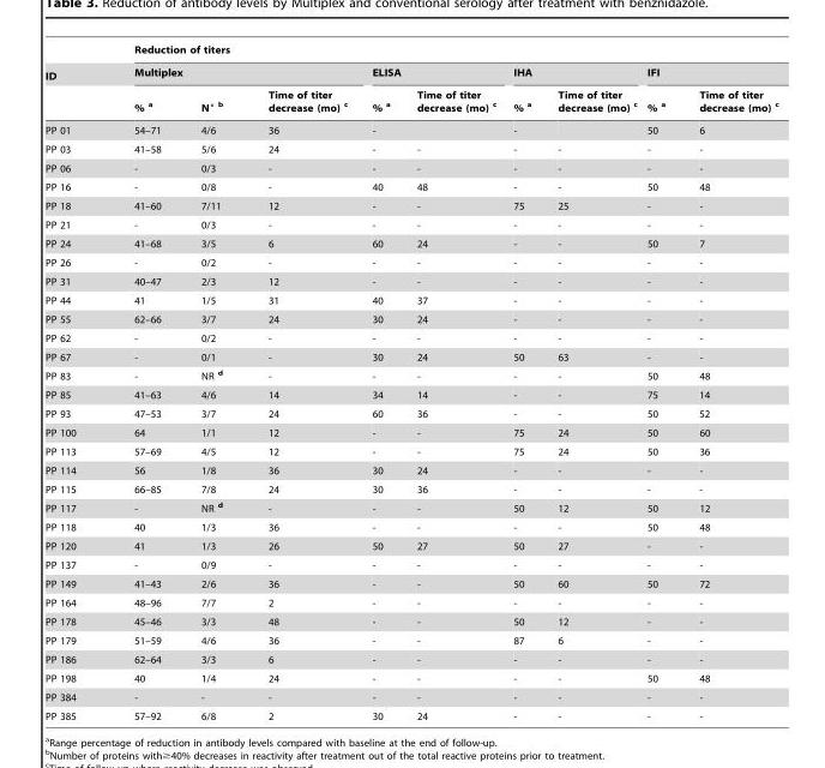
<table><thead><tr><td rowspan="3">ID</td><td colspan="9">Reduction of titers</td></tr><tr><td colspan="3">Multiplex</td><td colspan="2">ELISA</td><td colspan="2">IHA</td><td colspan="2">IFI</td></tr><tr><td>% a</td><td>N° b</td><td>Time of titer decrease (mo) c</td><td>% a</td><td>Time of titer decrease (mo) c</td><td>% a</td><td>Time of titer decrease (mo) c</td><td>% a</td><td>Time of titer decrease (mo) c</td></tr></thead><tbody><tr><td>PP 01</td><td>54–71</td><td>4/6</td><td>36</td><td>-</td><td></td><td>-</td><td></td><td>50</td><td>6</td></tr><tr><td>PP 03</td><td>41–58</td><td>5/6</td><td>24</td><td>-</td><td>-</td><td>-</td><td>-</td><td>-</td><td>-</td></tr><tr><td>PP 06</td><td>-</td><td>0/3</td><td>-</td><td>-</td><td>-</td><td>-</td><td>-</td><td>-</td><td>-</td></tr><tr><td>PP 16</td><td>-</td><td>0/8</td><td>-</td><td>40</td><td>48</td><td>-</td><td>-</td><td>50</td><td>48</td></tr><tr><td>PP 18</td><td>41–60</td><td>7/11</td><td>12</td><td>-</td><td>-</td><td>75</td><td>25</td><td>-</td><td>-</td></tr><tr><td>PP 21</td><td>-</td><td>0/3</td><td>-</td><td>-</td><td>-</td><td>-</td><td>-</td><td>-</td><td>-</td></tr><tr><td>PP 24</td><td>41–68</td><td>3/5</td><td>6</td><td>60</td><td>24</td><td>-</td><td>-</td><td>50</td><td>7</td></tr><tr><td>PP 26</td><td>-</td><td>0/2</td><td>-</td><td>-</td><td>-</td><td>-</td><td>-</td><td>-</td><td>-</td></tr><tr><td>PP 31</td><td>40–47</td><td>2/3</td><td>12</td><td>-</td><td>-</td><td>-</td><td>-</td><td>-</td><td>-</td></tr><tr><td>PP 44</td><td>41</td><td>1/5</td><td>31</td><td>40</td><td>37</td><td>-</td><td>-</td><td>-</td><td>-</td></tr><tr><td>PP 55</td><td>62–66</td><td>3/7</td><td>24</td><td>30</td><td>24</td><td>-</td><td>-</td><td>-</td><td>-</td></tr><tr><td>PP 62</td><td>-</td><td>0/2</td><td>-</td><td>-</td><td>-</td><td>-</td><td>-</td><td>-</td><td>-</td></tr><tr><td>PP 67</td><td>-</td><td>0/1</td><td>-</td><td>30</td><td>24</td><td>50</td><td>63</td><td>-</td><td>-</td></tr><tr><td>PP 83</td><td>-</td><td>NR d</td><td>-</td><td>-</td><td>-</td><td>-</td><td>-</td><td>50</td><td>48</td></tr><tr><td>PP 85</td><td>41–63</td><td>4/6</td><td>14</td><td>34</td><td>14</td><td>-</td><td>-</td><td>75</td><td>14</td></tr><tr><td>PP 93</td><td>47–53</td><td>3/7</td><td>24</td><td>60</td><td>36</td><td>-</td><td>-</td><td>50</td><td>52</td></tr><tr><td>PP 100</td><td>64</td><td>1/1</td><td>12</td><td>-</td><td>-</td><td>75</td><td>24</td><td>50</td><td>60</td></tr><tr><td>PP 113</td><td>57–69</td><td>4/5</td><td>12</td><td>-</td><td>-</td><td>75</td><td>24</td><td>50</td><td>36</td></tr><tr><td>PP 114</td><td>56</td><td>1/8</td><td>36</td><td>30</td><td>24</td><td>-</td><td>-</td><td>-</td><td>-</td></tr><tr><td>PP 115</td><td>66–85</td><td>7/8</td><td>24</td><td>30</td><td>36</td><td>-</td><td>-</td><td>-</td><td>-</td></tr><tr><td>PP 117</td><td>-</td><td>NR d</td><td>-</td><td>-</td><td>-</td><td>50</td><td>12</td><td>50</td><td>12</td></tr><tr><td>PP 118</td><td>40</td><td>1/3</td><td>36</td><td>-</td><td>-</td><td>-</td><td>-</td><td>50</td><td>48</td></tr><tr><td>PP 120</td><td>41</td><td>1/3</td><td>26</td><td>50</td><td>27</td><td>50</td><td>27</td><td>-</td><td>-</td></tr><tr><td>PP 137</td><td>-</td><td>0/9</td><td>-</td><td>-</td><td>-</td><td>-</td><td>-</td><td>-</td><td>-</td></tr><tr><td>PP 149</td><td>41–43</td><td>2/6</td><td>36</td><td>-</td><td>-</td><td>50</td><td>60</td><td>50</td><td>72</td></tr><tr><td>PP 164</td><td>48–96</td><td>7/7</td><td>2</td><td>-</td><td>-</td><td>-</td><td>-</td><td>-</td><td>-</td></tr><tr><td>PP 178</td><td>45–46</td><td>3/3</td><td>48</td><td>-</td><td>-</td><td>50</td><td>12</td><td>-</td><td>-</td></tr><tr><td>PP 179</td><td>51–59</td><td>4/6</td><td>36</td><td>-</td><td>-</td><td>87</td><td>6</td><td>-</td><td>-</td></tr><tr><td>PP 186</td><td>62–64</td><td>3/3</td><td>6</td><td>-</td><td>-</td><td>-</td><td>-</td><td>-</td><td>-</td></tr><tr><td>PP 198</td><td>40</td><td>1/4</td><td>24</td><td>-</td><td>-</td><td>-</td><td>-</td><td>50</td><td>48</td></tr><tr><td>PP 384</td><td>-</td><td>-</td><td>-</td><td>-</td><td>-</td><td>-</td><td>-</td><td>-</td><td>-</td></tr><tr><td>PP 385</td><td>57–92</td><td>6/8</td><td>2</td><td>30</td><td>24</td><td>-</td><td>-</td><td>-</td><td>-</td></tr></tbody></table>